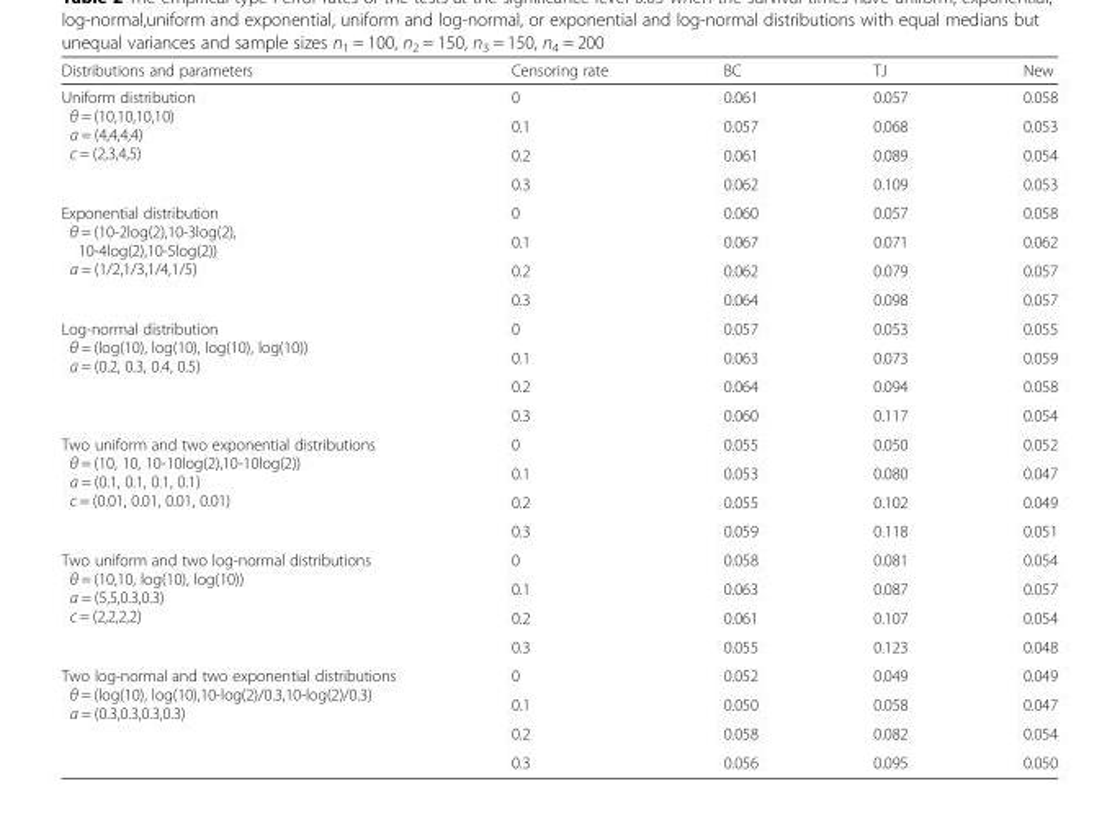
<table><thead><tr><td>Distributions and parameters</td><td>Censoring rate</td><td>BC</td><td>TJ</td><td>New</td></tr></thead><tbody><tr><td rowspan="4">Uniform distribution θ = (10,10,10,10) a = (4,4,4,4) c = (2,3,4,5)</td><td>0</td><td>0.061</td><td>0.057</td><td>0.058</td></tr><tr><td>0.1</td><td>0.057</td><td>0.068</td><td>0.053</td></tr><tr><td>0.2</td><td>0.061</td><td>0.089</td><td>0.054</td></tr><tr><td>0.3</td><td>0.062</td><td>0.109</td><td>0.053</td></tr><tr><td rowspan="4">Exponential distribution θ = (10-2log(2),10-3log(2), 10-4log(2),10-5log(2)) a = (1/2,1/3,1/4,1/5)</td><td>0</td><td>0.060</td><td>0.057</td><td>0.058</td></tr><tr><td>0.1</td><td>0.067</td><td>0.071</td><td>0.062</td></tr><tr><td>0.2</td><td>0.062</td><td>0.079</td><td>0.057</td></tr><tr><td>0.3</td><td>0.064</td><td>0.098</td><td>0.057</td></tr><tr><td rowspan="4">Log-normal distribution θ = (log(10), log(10), log(10), log(10)) a = (0.2, 0.3, 0.4, 0.5)</td><td>0</td><td>0.057</td><td>0.053</td><td>0.055</td></tr><tr><td>0.1</td><td>0.063</td><td>0.073</td><td>0.059</td></tr><tr><td>0.2</td><td>0.064</td><td>0.094</td><td>0.058</td></tr><tr><td>0.3</td><td>0.060</td><td>0.117</td><td>0.054</td></tr><tr><td rowspan="4">Two uniform and two exponential distributions θ = (10, 10, 10-10log(2),10-10log(2)) a = (0.1, 0.1, 0.1, 0.1) c = (0.01, 0.01, 0.01, 0.01)</td><td>0</td><td>0.055</td><td>0.050</td><td>0.052</td></tr><tr><td>0.1</td><td>0.053</td><td>0.080</td><td>0.047</td></tr><tr><td>0.2</td><td>0.055</td><td>0.102</td><td>0.049</td></tr><tr><td>0.3</td><td>0.059</td><td>0.118</td><td>0.051</td></tr><tr><td rowspan="4">Two uniform and two log-normal distributions θ = (10,10, log(10), log(10)) a = (5,5,0.3,0.3) c = (2,2,2,2)</td><td>0</td><td>0.058</td><td>0.081</td><td>0.054</td></tr><tr><td>0.1</td><td>0.063</td><td>0.087</td><td>0.057</td></tr><tr><td>0.2</td><td>0.061</td><td>0.107</td><td>0.054</td></tr><tr><td>0.3</td><td>0.055</td><td>0.123</td><td>0.048</td></tr><tr><td rowspan="4">Two log-normal and two exponential distributions θ = (log(10), log(10),10-log(2)/0.3,10-log(2)/0.3) a = (0.3,0.3,0.3,0.3)</td><td>0</td><td>0.052</td><td>0.049</td><td>0.049</td></tr><tr><td>0.1</td><td>0.050</td><td>0.058</td><td>0.047</td></tr><tr><td>0.2</td><td>0.058</td><td>0.082</td><td>0.054</td></tr><tr><td>0.3</td><td>0.056</td><td>0.095</td><td>0.050</td></tr></tbody></table>